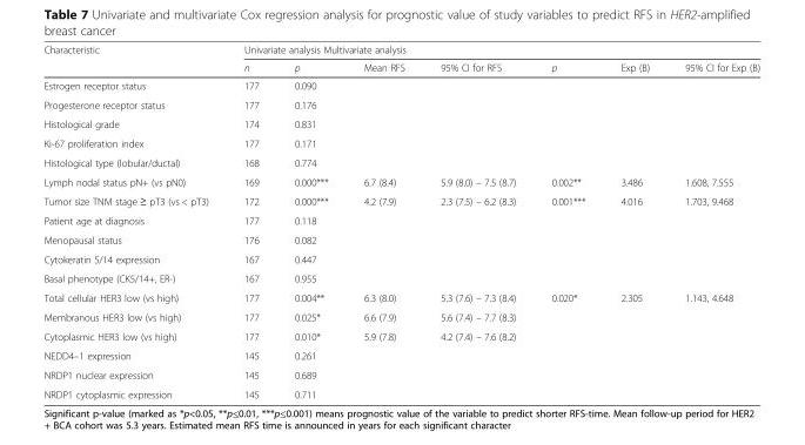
<table><thead><tr><td rowspan="2">Characteristic</td><td colspan="7">Univariate analysis Multivariate analysis</td></tr><tr><td>n</td><td>p</td><td>Mean RFS</td><td>95% CI for RFS</td><td>p</td><td>Exp (B)</td><td>95% CI for Exp (B)</td></tr></thead><tbody><tr><td>Estrogen receptor status</td><td>177</td><td>0.090</td><td></td><td></td><td></td><td></td><td></td></tr><tr><td>Progesterone receptor status</td><td>177</td><td>0.176</td><td></td><td></td><td></td><td></td><td></td></tr><tr><td>Histological grade</td><td>174</td><td>0.831</td><td></td><td></td><td></td><td></td><td></td></tr><tr><td>Ki-67 proliferation index</td><td>177</td><td>0.171</td><td></td><td></td><td></td><td></td><td></td></tr><tr><td>Histological type (lobular/ductal)</td><td>168</td><td>0.774</td><td></td><td></td><td></td><td></td><td></td></tr><tr><td>Lymph nodal status pN+ (vs pN0)</td><td>169</td><td>0.000***</td><td>6.7 (8.4)</td><td>5.9 (8.0) – 7.5 (8.7)</td><td>0.002**</td><td>3.486</td><td>1.608, 7.555</td></tr><tr><td>Tumor size TNM stage ≥ pT3 (vs &lt; pT3)</td><td>172</td><td>0.000***</td><td>4.2 (7.9)</td><td>2.3 (7.5) – 6.2 (8.3)</td><td>0.001***</td><td>4.016</td><td>1.703, 9.468</td></tr><tr><td>Patient age at diagnosis</td><td>177</td><td>0.118</td><td></td><td></td><td></td><td></td><td></td></tr><tr><td>Menopausal status</td><td>176</td><td>0.082</td><td></td><td></td><td></td><td></td><td></td></tr><tr><td>Cytokeratin 5/14 expression</td><td>167</td><td>0.447</td><td></td><td></td><td></td><td></td><td></td></tr><tr><td>Basal phenotype (CK5/14+, ER-)</td><td>167</td><td>0.955</td><td></td><td></td><td></td><td></td><td></td></tr><tr><td>Total cellular HER3 low (vs high)</td><td>177</td><td>0.004**</td><td>6.3 (8.0)</td><td>5.3 (7.6) – 7.3 (8.4)</td><td>0.020*</td><td>2.305</td><td>1.143, 4.648</td></tr><tr><td>Membranous HER3 low (vs high)</td><td>177</td><td>0.025*</td><td>6.6 (7.9)</td><td>5.6 (7.4) – 7.7 (8.3)</td><td></td><td></td><td></td></tr><tr><td>Cytoplasmic HER3 low (vs high)</td><td>177</td><td>0.010*</td><td>5.9 (7.8)</td><td>4.2 (7.4) – 7.6 (8.2)</td><td></td><td></td><td></td></tr><tr><td>NEDD4–1 expression</td><td>145</td><td>0.261</td><td></td><td></td><td></td><td></td><td></td></tr><tr><td>NRDP1 nuclear expression</td><td>145</td><td>0.689</td><td></td><td></td><td></td><td></td><td></td></tr><tr><td>NRDP1 cytoplasmic expression</td><td>145</td><td>0.711</td><td></td><td></td><td></td><td></td><td></td></tr></tbody></table>